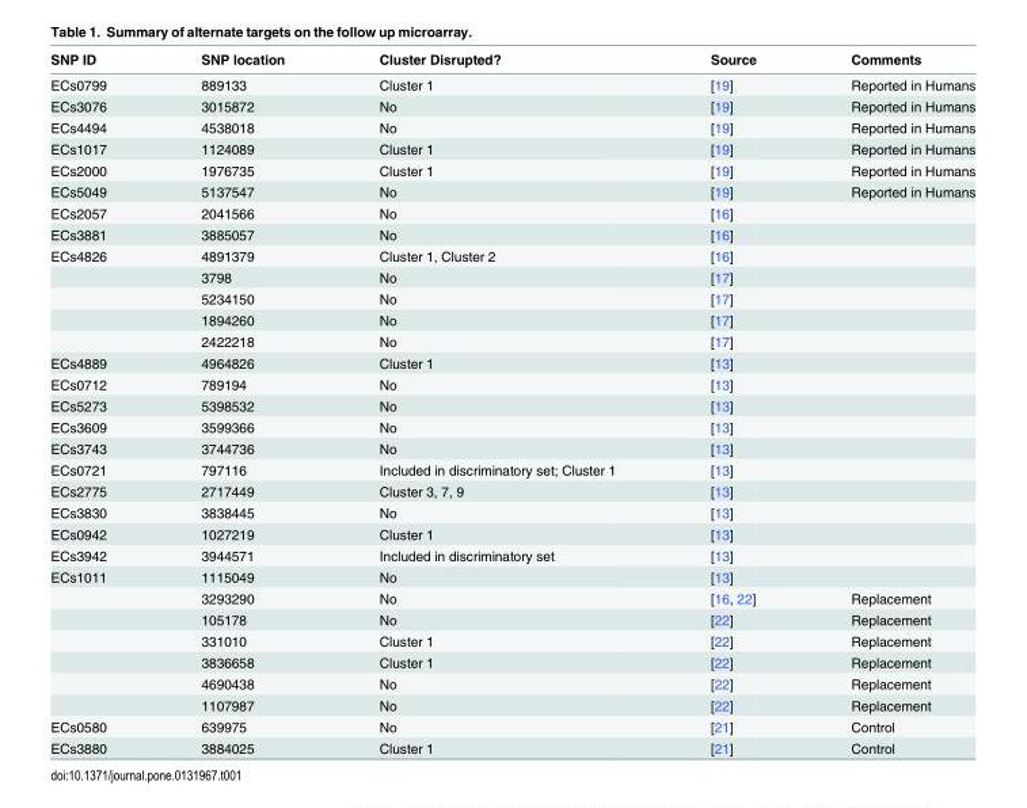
<table><thead><tr><td>SNP ID</td><td>SNP location</td><td>Cluster Disrupted?</td><td>Source</td><td>Comments</td></tr></thead><tbody><tr><td>ECs0799</td><td>889133</td><td>Cluster 1</td><td>[19]</td><td>Reported in Humans</td></tr><tr><td>ECs3076</td><td>3015872</td><td>No</td><td>[19]</td><td>Reported in Humans</td></tr><tr><td>ECs4494</td><td>4538018</td><td>No</td><td>[19]</td><td>Reported in Humans</td></tr><tr><td>ECs1017</td><td>1124089</td><td>Cluster 1</td><td>[19]</td><td>Reported in Humans</td></tr><tr><td>ECs2000</td><td>1976735</td><td>Cluster 1</td><td>[19]</td><td>Reported in Humans</td></tr><tr><td>ECs5049</td><td>5137547</td><td>No</td><td>[19]</td><td>Reported in Humans</td></tr><tr><td>ECs2057</td><td>2041566</td><td>No</td><td>[16]</td><td></td></tr><tr><td>ECs3881</td><td>3885057</td><td>No</td><td>[16]</td><td></td></tr><tr><td rowspan="5">ECs4826</td><td>4891379</td><td>Cluster 1, Cluster 2</td><td>[16]</td><td></td></tr><tr><td>3798</td><td>No</td><td>[17]</td><td></td></tr><tr><td>5234150</td><td>No</td><td>[17]</td><td></td></tr><tr><td>1894260</td><td>No</td><td>[17]</td><td></td></tr><tr><td>2422218</td><td>No</td><td>[17]</td><td></td></tr><tr><td>ECs4889</td><td>4964826</td><td>Cluster 1</td><td>[13]</td><td></td></tr><tr><td>ECs0712</td><td>789194</td><td>No</td><td>[13]</td><td></td></tr><tr><td>ECs5273</td><td>5398532</td><td>No</td><td>[13]</td><td></td></tr><tr><td>ECs3609</td><td>3599366</td><td>No</td><td>[13]</td><td></td></tr><tr><td>ECs3743</td><td>3744736</td><td>No</td><td>[13]</td><td></td></tr><tr><td>ECs0721</td><td>797116</td><td>Included in discriminatory set; Cluster 1</td><td>[13]</td><td></td></tr><tr><td>ECs2775</td><td>2717449</td><td>Cluster 3, 7, 9</td><td>[13]</td><td></td></tr><tr><td>ECs3830</td><td>3838445</td><td>No</td><td>[13]</td><td></td></tr><tr><td>ECs0942</td><td>1027219</td><td>Cluster 1</td><td>[13]</td><td></td></tr><tr><td>ECs3942</td><td>3944571</td><td>Included in discriminatory set</td><td>[13]</td><td></td></tr><tr><td rowspan="7">ECs1011</td><td>1115049</td><td>No</td><td>[13]</td><td></td></tr><tr><td>3293290</td><td>No</td><td>[16, 22]</td><td>Replacement</td></tr><tr><td>105178</td><td>No</td><td>[22]</td><td>Replacement</td></tr><tr><td>331010</td><td>Cluster 1</td><td>[22]</td><td>Replacement</td></tr><tr><td>3836658</td><td>Cluster 1</td><td>[22]</td><td>Replacement</td></tr><tr><td>4690438</td><td>No</td><td>[22]</td><td>Replacement</td></tr><tr><td>1107987</td><td>No</td><td>[22]</td><td>Replacement</td></tr><tr><td>ECs0580</td><td>639975</td><td>No</td><td>[21]</td><td>Control</td></tr><tr><td>ECs3880</td><td>3884025</td><td>Cluster 1</td><td>[21]</td><td>Control</td></tr></tbody></table>